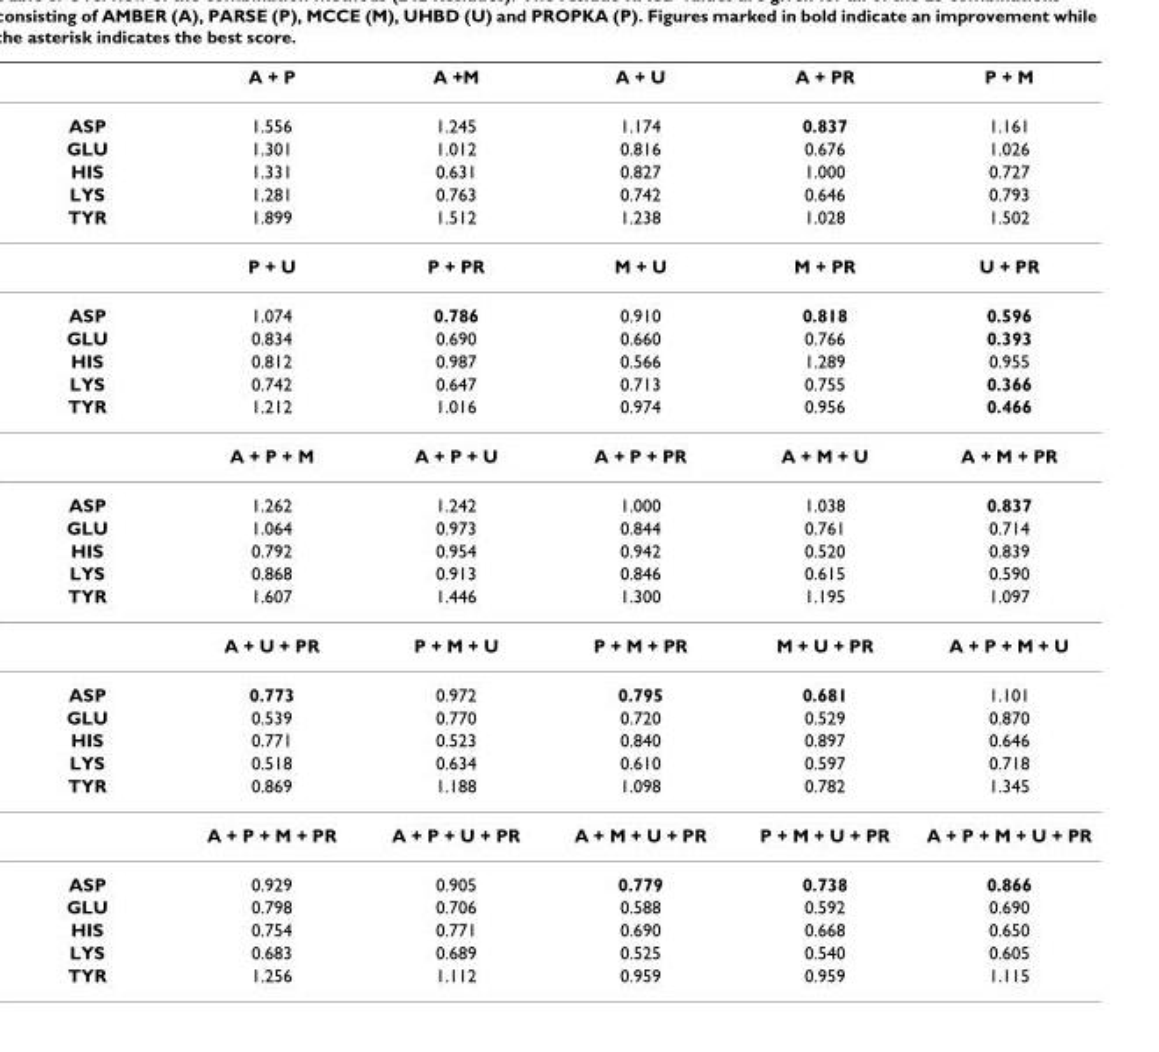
<table><thead><tr><td></td><td>A + P</td><td>A +M</td><td>A + U</td><td>A + PR</td><td>P + M</td></tr></thead><tbody><tr><td>ASP</td><td>1.556</td><td>1.245</td><td>1.174</td><td>0.837</td><td>1.161</td></tr><tr><td>GLU</td><td>1.301</td><td>1.012</td><td>0.816</td><td>0.676</td><td>1.026</td></tr><tr><td>HIS</td><td>1.331</td><td>0.631</td><td>0.827</td><td>1.000</td><td>0.727</td></tr><tr><td>LYS</td><td>1.281</td><td>0.763</td><td>0.742</td><td>0.646</td><td>0.793</td></tr><tr><td rowspan="2">TYR</td><td>1.899</td><td>1.512</td><td>1.238</td><td>1.028</td><td>1.502</td></tr><tr><td>P + U</td><td>P + PR</td><td>M + U</td><td>M + PR</td><td>U + PR</td></tr><tr><td>ASP</td><td>1.074</td><td>0.786</td><td>0.910</td><td>0.818</td><td>0.596</td></tr><tr><td>GLU</td><td>0.834</td><td>0.690</td><td>0.660</td><td>0.766</td><td>0.393</td></tr><tr><td>HIS</td><td>0.812</td><td>0.987</td><td>0.566</td><td>1.289</td><td>0.955</td></tr><tr><td>LYS</td><td>0.742</td><td>0.647</td><td>0.713</td><td>0.755</td><td>0.366</td></tr><tr><td rowspan="2">TYR</td><td>1.212</td><td>1.016</td><td>0.974</td><td>0.956</td><td>0.466</td></tr><tr><td>A + P + M</td><td>A + P + U</td><td>A + P + PR</td><td>A + M + U</td><td>A + M + PR</td></tr><tr><td>ASP</td><td>1.262</td><td>1.242</td><td>1.000</td><td>1.038</td><td>0.837</td></tr><tr><td>GLU</td><td>1.064</td><td>0.973</td><td>0.844</td><td>0.761</td><td>0.714</td></tr><tr><td>HIS</td><td>0.792</td><td>0.954</td><td>0.942</td><td>0.520</td><td>0.839</td></tr><tr><td>LYS</td><td>0.868</td><td>0.913</td><td>0.846</td><td>0.615</td><td>0.590</td></tr><tr><td rowspan="2">TYR</td><td>1.607</td><td>1.446</td><td>1.300</td><td>1.195</td><td>1.097</td></tr><tr><td>A + U + PR</td><td>P + M + U</td><td>P + M + PR</td><td>M + U + PR</td><td>A + P + M + U</td></tr><tr><td>ASP</td><td>0.773</td><td>0.972</td><td>0.795</td><td>0.681</td><td>1.101</td></tr><tr><td>GLU</td><td>0.539</td><td>0.770</td><td>0.720</td><td>0.529</td><td>0.870</td></tr><tr><td>HIS</td><td>0.771</td><td>0.523</td><td>0.840</td><td>0.897</td><td>0.646</td></tr><tr><td>LYS</td><td>0.518</td><td>0.634</td><td>0.610</td><td>0.597</td><td>0.718</td></tr><tr><td rowspan="2">TYR</td><td>0.869</td><td>1.188</td><td>1.098</td><td>0.782</td><td>1.345</td></tr><tr><td>A + P + M + PR</td><td>A + P + U + PR</td><td>A + M + U + PR</td><td>P + M + U + PR</td><td>A + P + M + U + PR</td></tr><tr><td>ASP</td><td>0.929</td><td>0.905</td><td>0.779</td><td>0.738</td><td>0.866</td></tr><tr><td>GLU</td><td>0.798</td><td>0.706</td><td>0.588</td><td>0.592</td><td>0.690</td></tr><tr><td>HIS</td><td>0.754</td><td>0.771</td><td>0.690</td><td>0.668</td><td>0.650</td></tr><tr><td>LYS</td><td>0.683</td><td>0.689</td><td>0.525</td><td>0.540</td><td>0.605</td></tr><tr><td>TYR</td><td>1.256</td><td>1.112</td><td>0.959</td><td>0.959</td><td>1.115</td></tr></tbody></table>